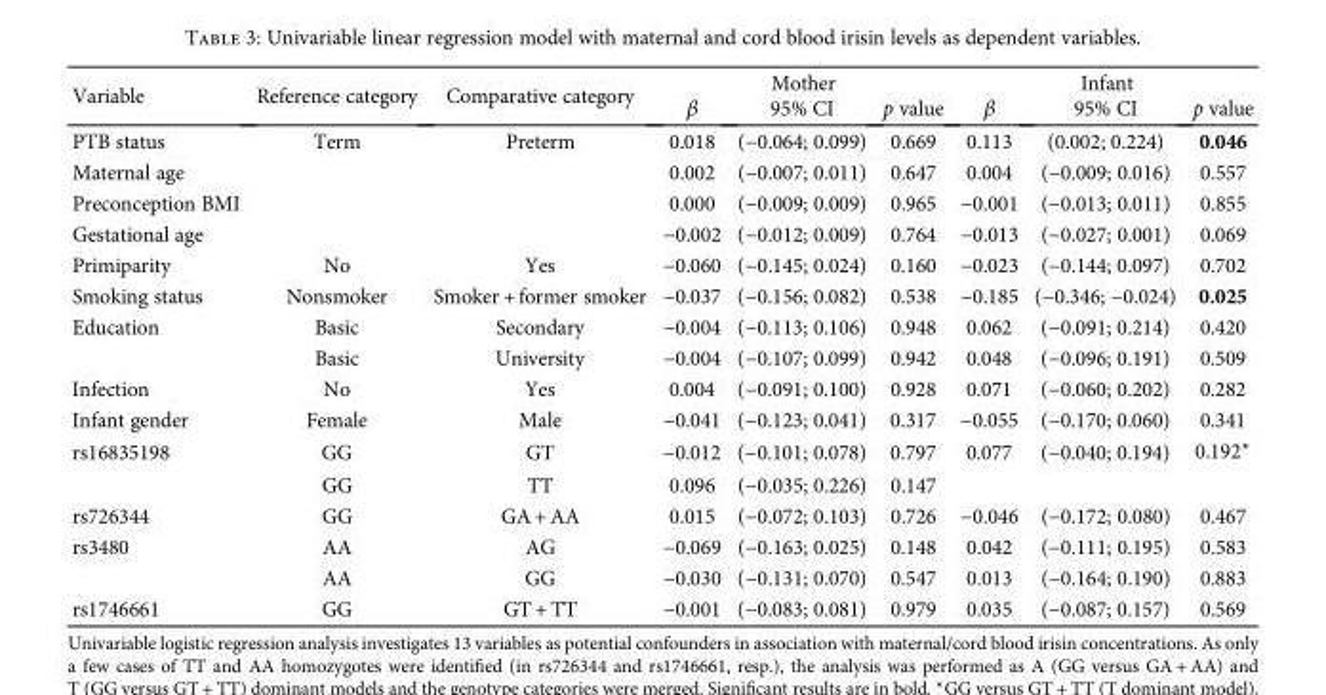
<table><thead><tr><td rowspan="2">Variable</td><td rowspan="2">Reference category</td><td rowspan="2">Comparative category</td><td colspan="3">Mother</td><td colspan="3">Infant</td></tr><tr><td>β</td><td>95% CI</td><td>p value</td><td>β</td><td>95% CI</td><td>p value</td></tr></thead><tbody><tr><td>PTB status</td><td>Term</td><td>Preterm</td><td>0.018</td><td>(−0.064; 0.099)</td><td>0.669</td><td>0.113</td><td>(0.002; 0.224)</td><td>0.046</td></tr><tr><td>Maternal age</td><td></td><td></td><td>0.002</td><td>(−0.007; 0.011)</td><td>0.647</td><td>0.004</td><td>(−0.009; 0.016)</td><td>0.557</td></tr><tr><td>Preconception BMI</td><td></td><td></td><td>0.000</td><td>(−0.009; 0.009)</td><td>0.965</td><td>−0.001</td><td>(−0.013; 0.011)</td><td>0.855</td></tr><tr><td>Gestational age</td><td></td><td></td><td>−0.002</td><td>(−0.012; 0.009)</td><td>0.764</td><td>−0.013</td><td>(−0.027; 0.001)</td><td>0.069</td></tr><tr><td>Primiparity</td><td>No</td><td>Yes</td><td>−0.060</td><td>(−0.145; 0.024)</td><td>0.160</td><td>−0.023</td><td>(−0.144; 0.097)</td><td>0.702</td></tr><tr><td>Smoking status</td><td>Nonsmoker</td><td>Smoker + former smoker</td><td>−0.037</td><td>(−0.156; 0.082)</td><td>0.538</td><td>−0.185</td><td>(−0.346; −0.024)</td><td>0.025</td></tr><tr><td rowspan="2">Education</td><td>Basic</td><td>Secondary</td><td>−0.004</td><td>(−0.113; 0.106)</td><td>0.948</td><td>0.062</td><td>(−0.091; 0.214)</td><td>0.420</td></tr><tr><td>Basic</td><td>University</td><td>−0.004</td><td>(−0.107; 0.099)</td><td>0.942</td><td>0.048</td><td>(−0.096; 0.191)</td><td>0.509</td></tr><tr><td>Infection</td><td>No</td><td>Yes</td><td>0.004</td><td>(−0.091; 0.100)</td><td>0.928</td><td>0.071</td><td>(−0.060; 0.202)</td><td>0.282</td></tr><tr><td>Infant gender</td><td>Female</td><td>Male</td><td>−0.041</td><td>(−0.123; 0.041)</td><td>0.317</td><td>−0.055</td><td>(−0.170; 0.060)</td><td>0.341</td></tr><tr><td rowspan="2">rs16835198</td><td>GG</td><td>GT</td><td>−0.012</td><td>(−0.101; 0.078)</td><td>0.797</td><td>0.077</td><td>(−0.040; 0.194)</td><td>0.192∗</td></tr><tr><td>GG</td><td>TT</td><td>0.096</td><td>(−0.035; 0.226)</td><td>0.147</td><td></td><td></td><td></td></tr><tr><td>rs726344</td><td>GG</td><td>GA + AA</td><td>0.015</td><td>(−0.072; 0.103)</td><td>0.726</td><td>−0.046</td><td>(−0.172; 0.080)</td><td>0.467</td></tr><tr><td rowspan="2">rs3480</td><td>AA</td><td>AG</td><td>−0.069</td><td>(−0.163; 0.025)</td><td>0.148</td><td>0.042</td><td>(−0.111; 0.195)</td><td>0.583</td></tr><tr><td>AA</td><td>GG</td><td>−0.030</td><td>(−0.131; 0.070)</td><td>0.547</td><td>0.013</td><td>(−0.164; 0.190)</td><td>0.883</td></tr><tr><td>rs1746661</td><td>GG</td><td>GT + TT</td><td>−0.001</td><td>(−0.083; 0.081)</td><td>0.979</td><td>0.035</td><td>(−0.087; 0.157)</td><td>0.569</td></tr></tbody></table>